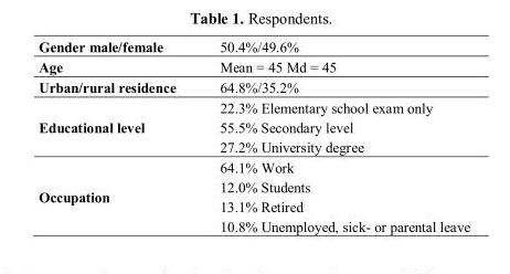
<table><tbody><tr><td>Gender male/female</td><td>50.4%/49.6%</td></tr><tr><td>Age</td><td>Mean = 45 Md = 45</td></tr><tr><td>Urban/rural residence</td><td>64.8%/35.2%</td></tr><tr><td rowspan="3">Educational level</td><td>22.3% Elementary school exam only</td></tr><tr><td>55.5% Secondary level</td></tr><tr><td>27.2% University degree</td></tr><tr><td rowspan="4">Occupation</td><td>64.1% Work</td></tr><tr><td>12.0% Students</td></tr><tr><td>13.1% Retired</td></tr><tr><td>10.8% Unemployed, sick- or parental leave</td></tr></tbody></table>